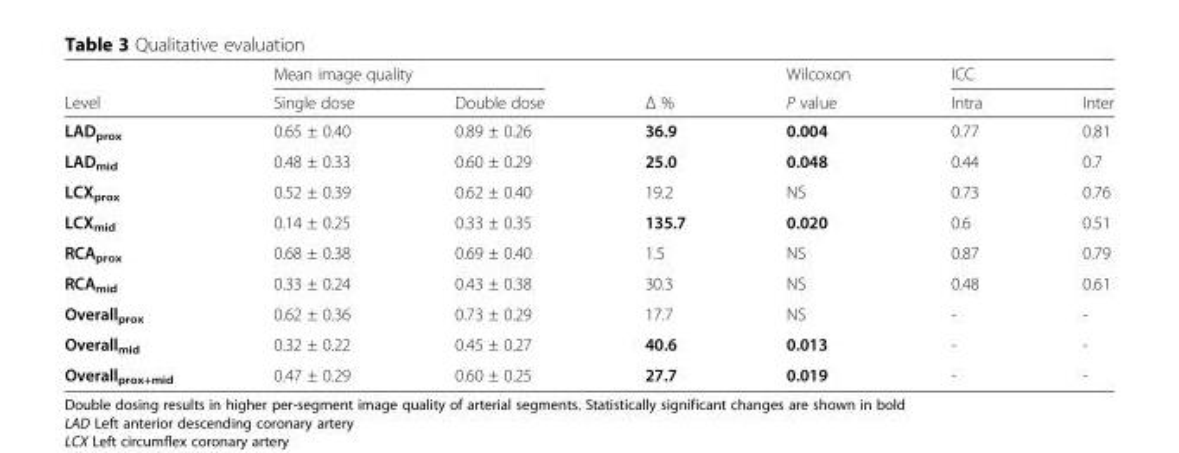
<table><thead><tr><td rowspan="2">Level</td><td colspan="2">Mean image quality</td><td rowspan="2">Δ %</td><td rowspan="2">Wilcoxon P value</td><td colspan="2">ICC</td></tr><tr><td>Single dose</td><td>Double dose</td><td>Intra</td><td>Inter</td></tr></thead><tbody><tr><td>LAD<sub>prox</sub></td><td>0.65 ± 0.40</td><td>0.89 ± 0.26</td><td>36.9</td><td>0.004</td><td>0.77</td><td>0.81</td></tr><tr><td>LAD<sub>mid</sub></td><td>0.48 ± 0.33</td><td>0.60 ± 0.29</td><td>25.0</td><td>0.048</td><td>0.44</td><td>0.7</td></tr><tr><td>LCX<sub>prox</sub></td><td>0.52 ± 0.39</td><td>0.62 ± 0.40</td><td>19.2</td><td>NS</td><td>0.73</td><td>0.76</td></tr><tr><td>LCX<sub>mid</sub></td><td>0.14 ± 0.25</td><td>0.33 ± 0.35</td><td>135.7</td><td>0.020</td><td>0.6</td><td>0.51</td></tr><tr><td>RCA<sub>prox</sub></td><td>0.68 ± 0.38</td><td>0.69 ± 0.40</td><td>1.5</td><td>NS</td><td>0.87</td><td>0.79</td></tr><tr><td>RCA<sub>mid</sub></td><td>0.33 ± 0.24</td><td>0.43 ± 0.38</td><td>30.3</td><td>NS</td><td>0.48</td><td>0.61</td></tr><tr><td>Overall<sub>prox</sub></td><td>0.62 ± 0.36</td><td>0.73 ± 0.29</td><td>17.7</td><td>NS</td><td>-</td><td>-</td></tr><tr><td>Overall<sub>mid</sub></td><td>0.32 ± 0.22</td><td>0.45 ± 0.27</td><td>40.6</td><td>0.013</td><td>-</td><td>-</td></tr><tr><td>Overall<sub>prox+mid</sub></td><td>0.47 ± 0.29</td><td>0.60 ± 0.25</td><td>27.7</td><td>0.019</td><td>-</td><td>-</td></tr></tbody></table>